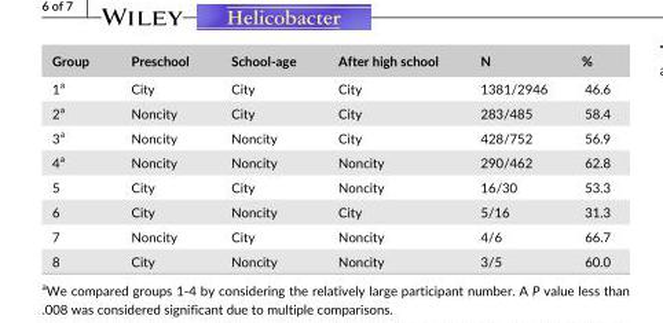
<table><thead><tr><td>Group</td><td>Preschool</td><td>School- age</td><td>After high school</td><td>N</td><td>%</td></tr></thead><tbody><tr><td>1<sup>a</sup></td><td>City</td><td>City</td><td>City</td><td>1381/2946</td><td>46.6</td></tr><tr><td>2<sup>a</sup></td><td>Noncity</td><td>City</td><td>City</td><td>283/485</td><td>58.4</td></tr><tr><td>3<sup>a</sup></td><td>Noncity</td><td>Noncity</td><td>City</td><td>428/752</td><td>56.9</td></tr><tr><td>4<sup>a</sup></td><td>Noncity</td><td>Noncity</td><td>Noncity</td><td>290/462</td><td>62.8</td></tr><tr><td>5</td><td>City</td><td>City</td><td>Noncity</td><td>16/30</td><td>53.3</td></tr><tr><td>6</td><td>City</td><td>Noncity</td><td>City</td><td>5/16</td><td>31.3</td></tr><tr><td>7</td><td>Noncity</td><td>City</td><td>Noncity</td><td>4/6</td><td>66.7</td></tr><tr><td>8</td><td>City</td><td>Noncity</td><td>Noncity</td><td>3/5</td><td>60.0</td></tr></tbody></table>